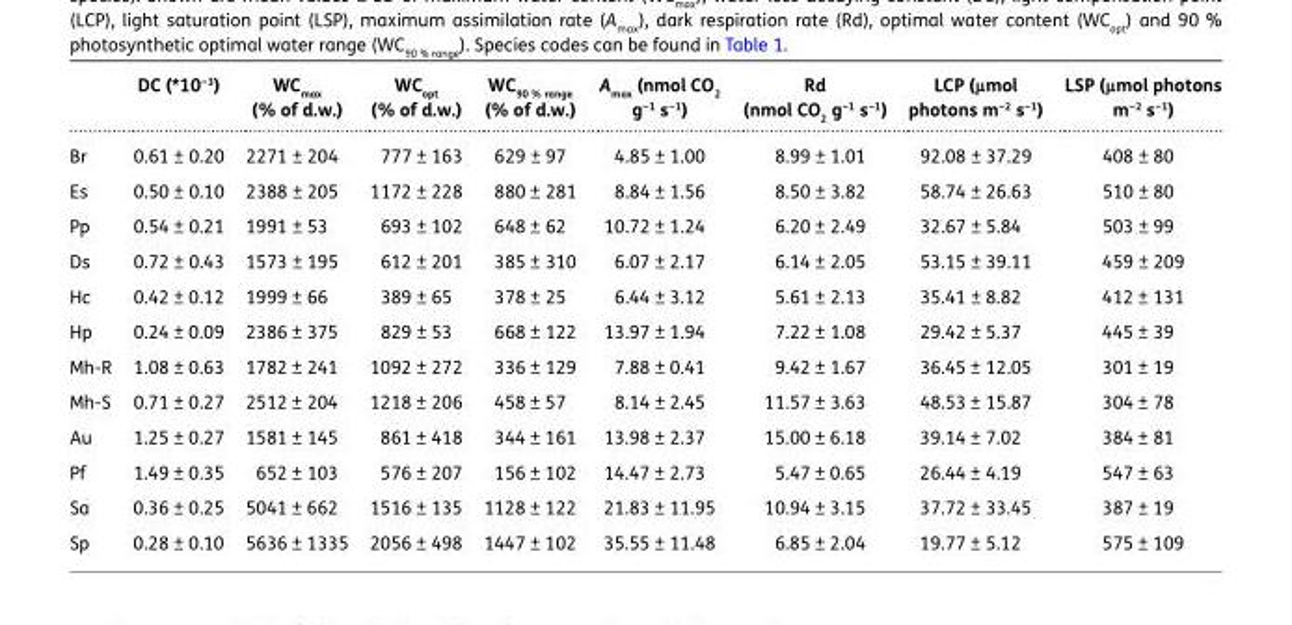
<table><thead><tr><td></td><td>DC (*10<sup>−3</sup>)</td><td>WC<sub>max</sub> (% of d.w.)</td><td>WC<sub>opt</sub> (% of d.w.)</td><td>WC<sub>90 % range</sub> (% of d.w.)</td><td>A<sub>max</sub> (nmol CO<sub>2</sub> g<sup>−1</sup> s<sup>−1</sup>)</td><td>Rd (nmol CO<sub>2</sub> g<sup>−1</sup> s<sup>−1</sup>)</td><td>LCP (μmol photons m<sup>−2</sup> s<sup>−1</sup>)</td><td>LSP (μmol photons m<sup>−2</sup> s<sup>−1</sup>)</td></tr></thead><tbody><tr><td>Br</td><td>0.61 ± 0.20</td><td>2271 ± 204</td><td>777 ± 163</td><td>629 ± 97</td><td>4.85 ± 1.00</td><td>8.99 ± 1.01</td><td>92.08 ± 37.29</td><td>408 ± 80</td></tr><tr><td>Es</td><td>0.50 ± 0.10</td><td>2388 ± 205</td><td>1172 ± 228</td><td>880 ± 281</td><td>8.84 ± 1.56</td><td>8.50 ± 3.82</td><td>58.74 ± 26.63</td><td>510 ± 80</td></tr><tr><td>Pp</td><td>0.54 ± 0.21</td><td>1991 ± 53</td><td>693 ± 102</td><td>648 ± 62</td><td>10.72 ± 1.24</td><td>6.20 ± 2.49</td><td>32.67 ± 5.84</td><td>503 ± 99</td></tr><tr><td>Ds</td><td>0.72 ± 0.43</td><td>1573 ± 195</td><td>612 ± 201</td><td>385 ± 310</td><td>6.07 ± 2.17</td><td>6.14 ± 2.05</td><td>53.15 ± 39.11</td><td>459 ± 209</td></tr><tr><td>Hc</td><td>0.42 ± 0.12</td><td>1999 ± 66</td><td>389 ± 65</td><td>378 ± 25</td><td>6.44 ± 3.12</td><td>5.61 ± 2.13</td><td>35.41 ± 8.82</td><td>412 ± 131</td></tr><tr><td>Hp</td><td>0.24 ± 0.09</td><td>2386 ± 375</td><td>829 ± 53</td><td>668 ± 122</td><td>13.97 ± 1.94</td><td>7.22 ± 1.08</td><td>29.42 ± 5.37</td><td>445 ± 39</td></tr><tr><td>Mh-R</td><td>1.08 ± 0.63</td><td>1782 ± 241</td><td>1092 ± 272</td><td>336 ± 129</td><td>7.88 ± 0.41</td><td>9.42 ± 1.67</td><td>36.45 ± 12.05</td><td>301 ± 19</td></tr><tr><td>Mh-S</td><td>0.71 ± 0.27</td><td>2512 ± 204</td><td>1218 ± 206</td><td>458 ± 57</td><td>8.14 ± 2.45</td><td>11.57 ± 3.63</td><td>48.53 ± 15.87</td><td>304 ± 78</td></tr><tr><td>Au</td><td>1.25 ± 0.27</td><td>1581 ± 145</td><td>861 ± 418</td><td>344 ± 161</td><td>13.98 ± 2.37</td><td>15.00 ± 6.18</td><td>39.14 ± 7.02</td><td>384 ± 81</td></tr><tr><td>Pf</td><td>1.49 ± 0.35</td><td>652 ± 103</td><td>576 ± 207</td><td>156 ± 102</td><td>14.47 ± 2.73</td><td>5.47 ± 0.65</td><td>26.44 ± 4.19</td><td>547 ± 63</td></tr><tr><td>Sa</td><td>0.36 ± 0.25</td><td>5041 ± 662</td><td>1516 ± 135</td><td>1128 ± 122</td><td>21.83 ± 11.95</td><td>10.94 ± 3.15</td><td>37.72 ± 33.45</td><td>387 ± 19</td></tr><tr><td>Sp</td><td>0.28 ± 0.10</td><td>5636 ± 1335</td><td>2056 ± 498</td><td>1447 ± 102</td><td>35.55 ± 11.48</td><td>6.85 ± 2.04</td><td>19.77 ± 5.12</td><td>575 ± 109</td></tr></tbody></table>